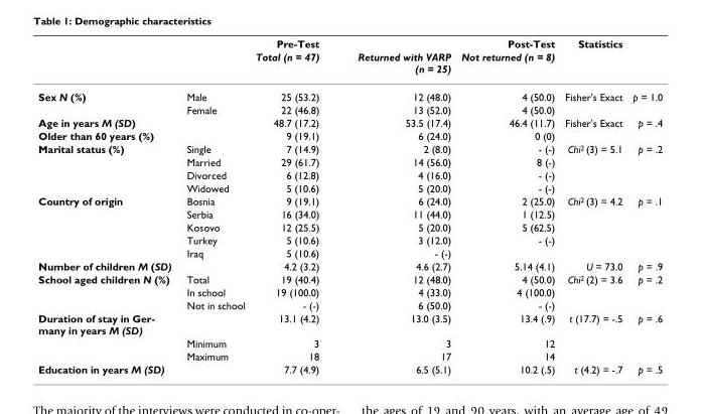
<table><thead><tr><td rowspan="2"></td><td rowspan="2"></td><td rowspan="2">Pre-Test Total (n = 47)</td><td colspan="2">Post-Test</td><td rowspan="2">Statistics</td><td rowspan="2"></td></tr><tr><td>Returned with VARP (n = 25)</td><td>Not returned (n = 8)</td></tr></thead><tbody><tr><td rowspan="2">Sex N (%)</td><td>Male</td><td>25 (53.2)</td><td>12 (48.0)</td><td>4 (50.0)</td><td>Fisher&#x27;s Exact</td><td>p = 1.0</td></tr><tr><td>Female</td><td>22 (46.8)</td><td>13 (52.0)</td><td>4 (50.0)</td><td></td><td></td></tr><tr><td>Age in years M (SD)</td><td></td><td>48.7 (17.2)</td><td>53.5 (17.4)</td><td>46.4 (11.7)</td><td>Fisher&#x27;s Exact</td><td>p = .4</td></tr><tr><td>Older than 60 years (%)</td><td></td><td>9 (19.1)</td><td>6 (24.0)</td><td>0 (0)</td><td></td><td></td></tr><tr><td rowspan="4">Marital status (%)</td><td>Single</td><td>7 (14.9)</td><td>2 (8.0)</td><td>- (-)</td><td>Chi<sup>2</sup> (3) = 5.1</td><td>p = .2</td></tr><tr><td>Married</td><td>29 (61.7)</td><td>14 (56.0)</td><td>8 (-)</td><td></td><td></td></tr><tr><td>Divorced</td><td>6 (12.8)</td><td>4 (16.0)</td><td>- (-)</td><td></td><td></td></tr><tr><td>Widowed</td><td>5 (10.6)</td><td>5 (20.0)</td><td>- (-)</td><td></td><td></td></tr><tr><td rowspan="5">Country of origin</td><td>Bosnia</td><td>9 (19.1)</td><td>6 (24.0)</td><td>2 (25.0)</td><td>Chi<sup>2</sup> (3) = 4.2</td><td>p = .1</td></tr><tr><td>Serbia</td><td>16 (34.0)</td><td>11 (44.0)</td><td>1 (12.5)</td><td></td><td></td></tr><tr><td>Kosovo</td><td>12 (25.5)</td><td>5 (20.0)</td><td>5 (62.5)</td><td></td><td></td></tr><tr><td>Turkey</td><td>5 (10.6)</td><td>3 (12.0)</td><td>- (-)</td><td></td><td></td></tr><tr><td>Iraq</td><td>5 (10.6)</td><td>- (-)</td><td></td><td></td><td></td></tr><tr><td>Number of children M (SD)</td><td></td><td>4.2 (3.2)</td><td>4.6 (2.7)</td><td>5.14 (4.1)</td><td>U = 73.0</td><td>p = .9</td></tr><tr><td rowspan="3">School aged children N (%)</td><td>Total</td><td>19 (40.4)</td><td>12 (48.0)</td><td>4 (50.0)</td><td>Chi<sup>2</sup> (2) = 3.6</td><td>p = .2</td></tr><tr><td>In school</td><td>19 (100.0)</td><td>4 (33.0)</td><td>4 (100.0)</td><td></td><td></td></tr><tr><td>Not in school</td><td>- (-)</td><td>6 (50.0)</td><td>- (-)</td><td></td><td></td></tr><tr><td rowspan="3">Duration of stay in Ger- many in years M (SD)</td><td></td><td>13.1 (4.2)</td><td>13.0 (3.5)</td><td>13.4 (.9)</td><td>t (17.7) = -.5</td><td>p = .6</td></tr><tr><td>Minimum</td><td>3</td><td>3</td><td>12</td><td></td><td></td></tr><tr><td>Maximum</td><td>18</td><td>17</td><td>14</td><td></td><td></td></tr><tr><td>Education in years M (SD)</td><td></td><td>7.7 (4.9)</td><td>6.5 (5.1)</td><td>10.2 (.5)</td><td>t (4.2) = -.7</td><td>p = .5</td></tr></tbody></table>